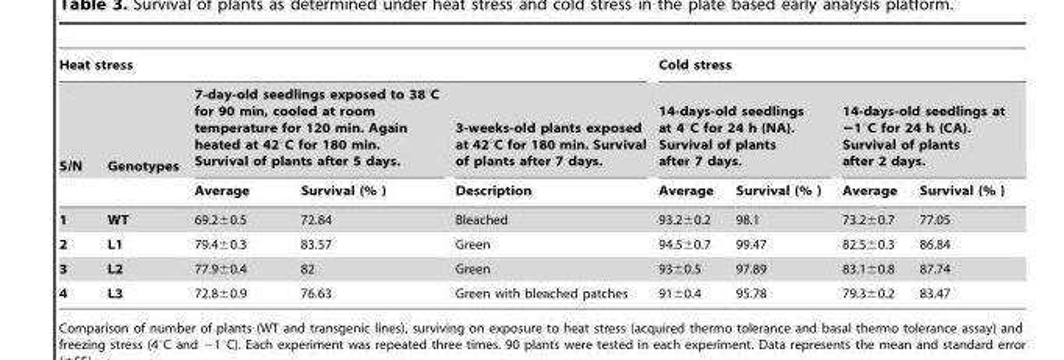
<table><thead><tr><td colspan="5">Heat stress</td><td colspan="4">Cold stress</td></tr><tr><td rowspan="2">S/N</td><td rowspan="2">Genotypes</td><td colspan="2">7-day-old seedlings exposed to 38°C for 90 min, cooled at room temperature for 120 min. Again heated at 42°C for 180 min. Survival of plants after 5 days.</td><td rowspan="2">3-weeks-old plants exposed at 42°C for 180 min. Survival of plants after 7 days. Description</td><td colspan="2">14-days-old seedlings at 4°C for 24 h (NA). Survival of plants after 7 days.</td><td colspan="2">14-days-old seedlings at −1°C for 24 h (CA). Survival of plants after 2 days.</td></tr><tr><td>Average</td><td>Survival (% )</td><td>Average</td><td>Survival (% )</td><td>Average</td><td>Survival (% )</td></tr></thead><tbody><tr><td>1</td><td>WT</td><td>69.2±0.5</td><td>72.84</td><td>Bleached</td><td>93.2±0.2</td><td>98.1</td><td>73.2±0.7</td><td>77.05</td></tr><tr><td>2</td><td>L1</td><td>79.4±0.3</td><td>83.57</td><td>Green</td><td>94.5±0.7</td><td>99.47</td><td>82.5±0.3</td><td>86.84</td></tr><tr><td>3</td><td>L2</td><td>77.9±0.4</td><td>82</td><td>Green</td><td>93±0.5</td><td>97.89</td><td>83.1±0.8</td><td>87.74</td></tr><tr><td>4</td><td>L3</td><td>72.8±0.9</td><td>76.63</td><td>Green with bleached patches</td><td>91±0.4</td><td>95.78</td><td>79.3±0.2</td><td>83.47</td></tr></tbody></table>